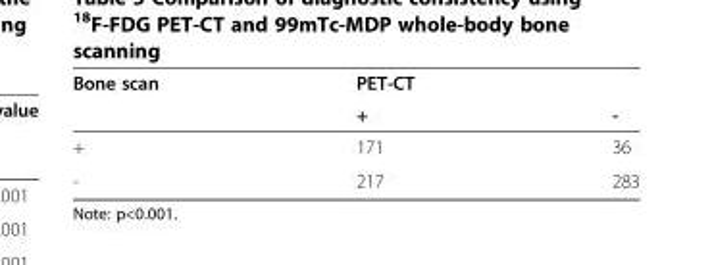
<table><thead><tr><td rowspan="2">Bone scan</td><td rowspan="2">PET-CT +</td><td rowspan="2">-</td></tr><tr></tr></thead><tbody><tr><td>+</td><td>171</td><td>36</td></tr><tr><td>-</td><td>217</td><td>283</td></tr></tbody></table>